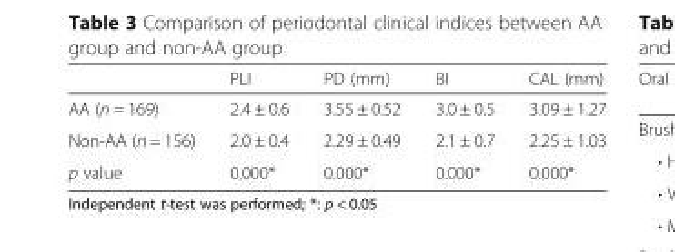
<table><thead><tr><td></td><td>PLI</td><td>PD (mm)</td><td>BI</td><td>CAL (mm)</td></tr></thead><tbody><tr><td>AA (n = 169)</td><td>2.4 ± 0.6</td><td>3.55 ± 0.52</td><td>3.0 ± 0.5</td><td>3.09 ± 1.27</td></tr><tr><td>Non-AA (n = 156)</td><td>2.0 ± 0.4</td><td>2.29 ± 0.49</td><td>2.1 ± 0.7</td><td>2.25 ± 1.03</td></tr><tr><td>p value</td><td>0.000*</td><td>0.000*</td><td>0.000*</td><td>0.000*</td></tr></tbody></table>